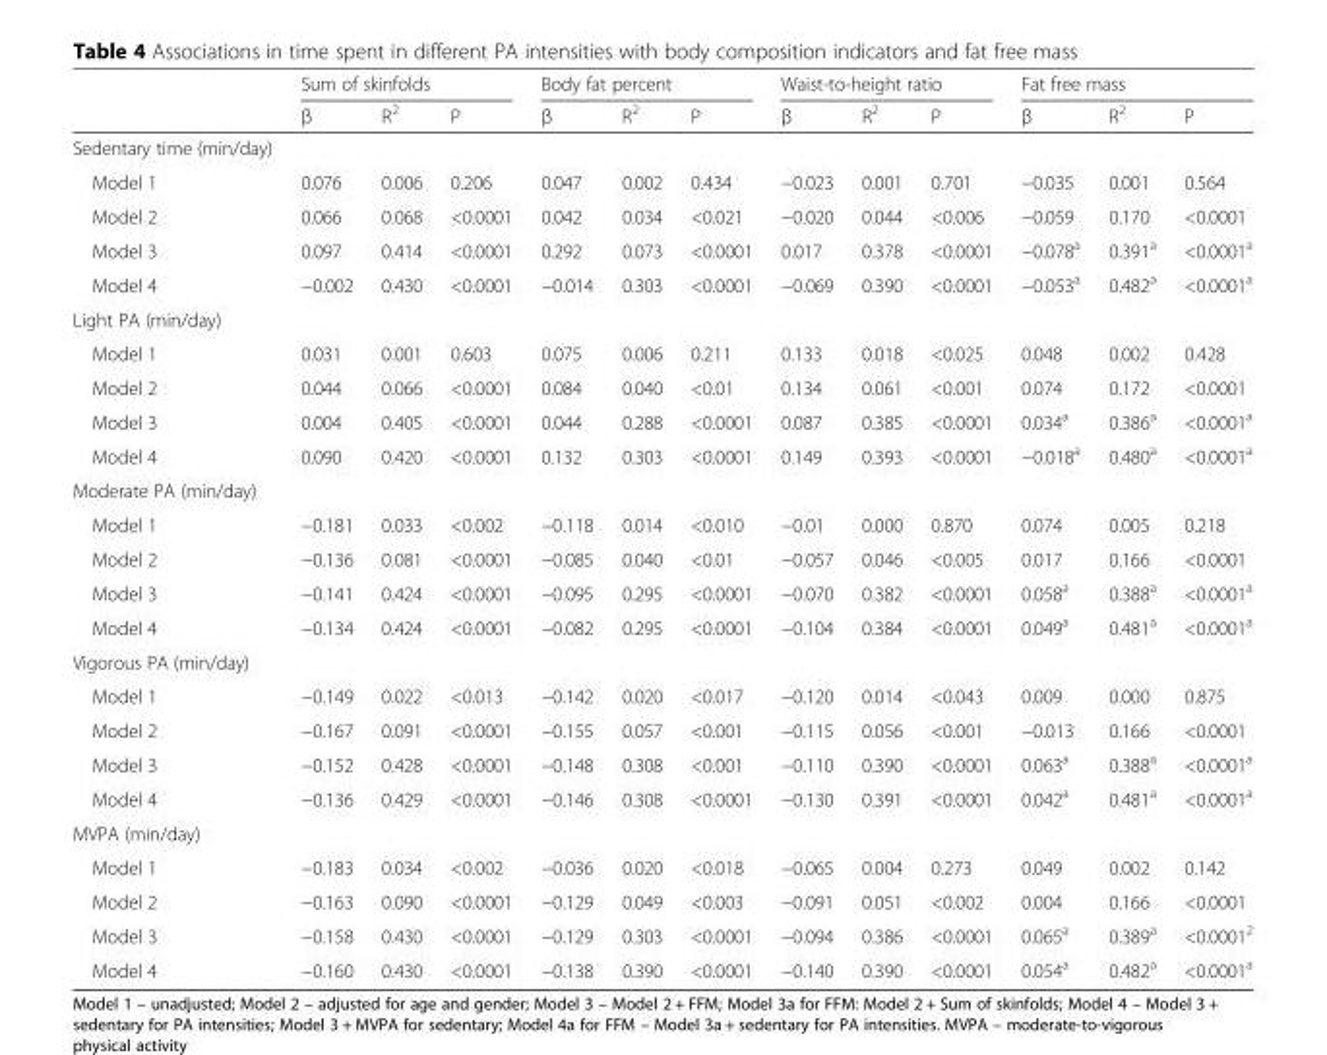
<table><thead><tr><td rowspan="2"></td><td colspan="3">Sum of skinfolds</td><td colspan="3">Body fat percent</td><td colspan="3">Waist-to-height ratio</td><td colspan="3">Fat free mass</td></tr><tr><td>β</td><td>R<sup>2</sup></td><td>P</td><td>β</td><td>R<sup>2</sup></td><td>P</td><td>β</td><td>R<sup>2</sup></td><td>P</td><td>β</td><td>R<sup>2</sup></td><td>P</td></tr></thead><tbody><tr><td colspan="13">Sedentary time (min/day)</td></tr><tr><td>Model 1</td><td>0.076</td><td>0.006</td><td>0.206</td><td>0.047</td><td>0.002</td><td>0.434</td><td>−0.023</td><td>0.001</td><td>0.701</td><td>−0.035</td><td>0.001</td><td>0.564</td></tr><tr><td>Model 2</td><td>0.066</td><td>0.068</td><td>&lt;0.0001</td><td>0.042</td><td>0.034</td><td>&lt;0.021</td><td>−0.020</td><td>0.044</td><td>&lt;0.006</td><td>−0.059</td><td>0.170</td><td>&lt;0.0001</td></tr><tr><td>Model 3</td><td>0.097</td><td>0.414</td><td>&lt;0.0001</td><td>0.292</td><td>0.073</td><td>&lt;0.0001</td><td>0.017</td><td>0.378</td><td>&lt;0.0001</td><td>−0.078<sup>a</sup></td><td>0.391<sup>a</sup></td><td>&lt;0.0001<sup>a</sup></td></tr><tr><td>Model 4</td><td>−0.002</td><td>0.430</td><td>&lt;0.0001</td><td>−0.014</td><td>0.303</td><td>&lt;0.0001</td><td>−0.069</td><td>0.390</td><td>&lt;0.0001</td><td>−0.053<sup>a</sup></td><td>0.482<sup>a</sup></td><td>&lt;0.0001<sup>a</sup></td></tr><tr><td colspan="13">Light PA (min/day)</td></tr><tr><td>Model 1</td><td>0.031</td><td>0.001</td><td>0.603</td><td>0.075</td><td>0.006</td><td>0.211</td><td>0.133</td><td>0.018</td><td>&lt;0.025</td><td>0.048</td><td>0.002</td><td>0.428</td></tr><tr><td>Model 2</td><td>0.044</td><td>0.066</td><td>&lt;0.0001</td><td>0.084</td><td>0.040</td><td>&lt;0.01</td><td>0.134</td><td>0.061</td><td>&lt;0.001</td><td>0.074</td><td>0.172</td><td>&lt;0.0001</td></tr><tr><td>Model 3</td><td>0.004</td><td>0.405</td><td>&lt;0.0001</td><td>0.044</td><td>0.288</td><td>&lt;0.0001</td><td>0.087</td><td>0.385</td><td>&lt;0.0001</td><td>0.034<sup>a</sup></td><td>0.386<sup>a</sup></td><td>&lt;0.0001<sup>a</sup></td></tr><tr><td>Model 4</td><td>0.090</td><td>0.420</td><td>&lt;0.0001</td><td>0.132</td><td>0.303</td><td>&lt;0.0001</td><td>0.149</td><td>0.393</td><td>&lt;0.0001</td><td>−0.018<sup>a</sup></td><td>0.480<sup>a</sup></td><td>&lt;0.0001<sup>a</sup></td></tr><tr><td colspan="13">Moderate PA (min/day)</td></tr><tr><td>Model 1</td><td>−0.181</td><td>0.033</td><td>&lt;0.002</td><td>−0.118</td><td>0.014</td><td>&lt;0.010</td><td>−0.01</td><td>0.000</td><td>0.870</td><td>0.074</td><td>0.005</td><td>0.218</td></tr><tr><td>Model 2</td><td>−0.136</td><td>0.081</td><td>&lt;0.0001</td><td>−0.085</td><td>0.040</td><td>&lt;0.01</td><td>−0.057</td><td>0.046</td><td>&lt;0.005</td><td>0.017</td><td>0.166</td><td>&lt;0.0001</td></tr><tr><td>Model 3</td><td>−0.141</td><td>0.424</td><td>&lt;0.0001</td><td>−0.095</td><td>0.295</td><td>&lt;0.0001</td><td>−0.070</td><td>0.382</td><td>&lt;0.0001</td><td>0.058<sup>a</sup></td><td>0.388<sup>a</sup></td><td>&lt;0.0001<sup>a</sup></td></tr><tr><td>Model 4</td><td>−0.134</td><td>0.424</td><td>&lt;0.0001</td><td>−0.082</td><td>0.295</td><td>&lt;0.0001</td><td>−0.104</td><td>0.384</td><td>&lt;0.0001</td><td>0.049<sup>a</sup></td><td>0.481<sup>a</sup></td><td>&lt;0.0001<sup>a</sup></td></tr><tr><td colspan="13">Vigorous PA (min/day)</td></tr><tr><td>Model 1</td><td>−0.149</td><td>0.022</td><td>&lt;0.013</td><td>−0.142</td><td>0.020</td><td>&lt;0.017</td><td>−0.120</td><td>0.014</td><td>&lt;0.043</td><td>0.009</td><td>0.000</td><td>0.875</td></tr><tr><td>Model 2</td><td>−0.167</td><td>0.091</td><td>&lt;0.0001</td><td>−0.155</td><td>0.057</td><td>&lt;0.001</td><td>−0.115</td><td>0.056</td><td>&lt;0.001</td><td>−0.013</td><td>0.166</td><td>&lt;0.0001</td></tr><tr><td>Model 3</td><td>−0.152</td><td>0.428</td><td>&lt;0.0001</td><td>−0.148</td><td>0.308</td><td>&lt;0.001</td><td>−0.110</td><td>0.390</td><td>&lt;0.0001</td><td>0.063<sup>a</sup></td><td>0.388<sup>a</sup></td><td>&lt;0.0001<sup>a</sup></td></tr><tr><td>Model 4</td><td>−0.136</td><td>0.429</td><td>&lt;0.0001</td><td>−0.146</td><td>0.308</td><td>&lt;0.0001</td><td>−0.130</td><td>0.391</td><td>&lt;0.0001</td><td>0.042<sup>a</sup></td><td>0.481<sup>a</sup></td><td>&lt;0.0001<sup>a</sup></td></tr><tr><td colspan="13">MVPA (min/day)</td></tr><tr><td>Model 1</td><td>−0.183</td><td>0.034</td><td>&lt;0.002</td><td>−0.036</td><td>0.020</td><td>&lt;0.018</td><td>−0.065</td><td>0.004</td><td>0.273</td><td>0.049</td><td>0.002</td><td>0.142</td></tr><tr><td>Model 2</td><td>−0.163</td><td>0.090</td><td>&lt;0.0001</td><td>−0.129</td><td>0.049</td><td>&lt;0.003</td><td>−0.091</td><td>0.051</td><td>&lt;0.002</td><td>0.004</td><td>0.166</td><td>&lt;0.0001</td></tr><tr><td>Model 3</td><td>−0.158</td><td>0.430</td><td>&lt;0.0001</td><td>−0.129</td><td>0.303</td><td>&lt;0.0001</td><td>−0.094</td><td>0.386</td><td>&lt;0.0001</td><td>0.065<sup>a</sup></td><td>0.389<sup>a</sup></td><td>&lt;0.0001<sup>2</sup></td></tr><tr><td>Model 4</td><td>−0.160</td><td>0.430</td><td>&lt;0.0001</td><td>−0.138</td><td>0.390</td><td>&lt;0.0001</td><td>−0.140</td><td>0.390</td><td>&lt;0.0001</td><td>0.054<sup>a</sup></td><td>0.482<sup>a</sup></td><td>&lt;0.0001<sup>a</sup></td></tr></tbody></table>